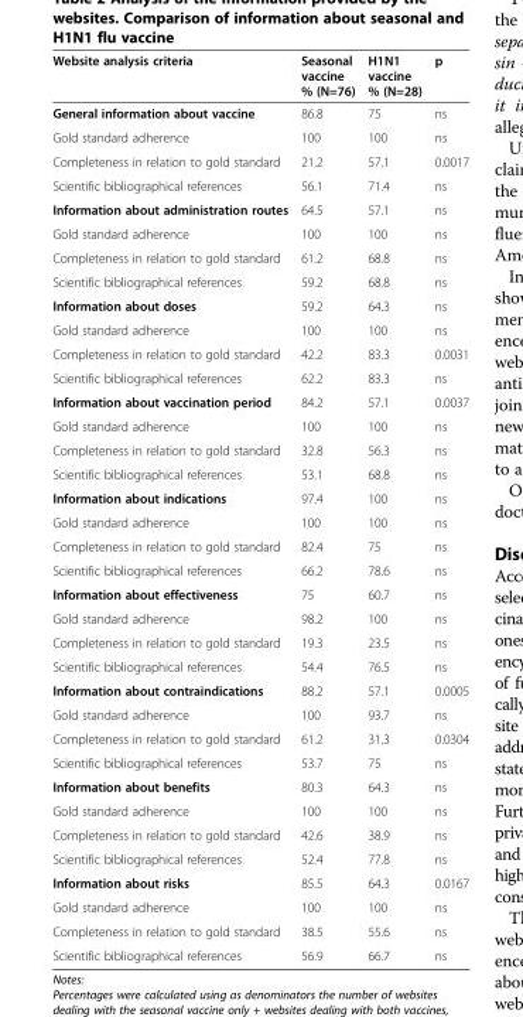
<table><thead><tr><td>Website analysis criteria</td><td>Seasonal vaccine % (N=76)</td><td>H1N1 vaccine % (N=28)</td><td>p</td></tr></thead><tbody><tr><td>General information about vaccine</td><td>86.8</td><td>75</td><td>ns</td></tr><tr><td>Gold standard adherence</td><td>100</td><td>100</td><td>ns</td></tr><tr><td>Completeness in relation to gold standard</td><td>21.2</td><td>57.1</td><td>0.0017</td></tr><tr><td>Scientific bibliographical references</td><td>56.1</td><td>71.4</td><td>ns</td></tr><tr><td>Information about administration routes</td><td>64.5</td><td>57.1</td><td>ns</td></tr><tr><td>Gold standard adherence</td><td>100</td><td>100</td><td>ns</td></tr><tr><td>Completeness in relation to gold standard</td><td>61.2</td><td>68.8</td><td>ns</td></tr><tr><td>Scientific bibliographical references</td><td>59.2</td><td>68.8</td><td>ns</td></tr><tr><td>Information about doses</td><td>59.2</td><td>64.3</td><td>ns</td></tr><tr><td>Gold standard adherence</td><td>100</td><td>100</td><td>ns</td></tr><tr><td>Completeness in relation to gold standard</td><td>42.2</td><td>83.3</td><td>0.0031</td></tr><tr><td>Scientific bibliographical references</td><td>62.2</td><td>83.3</td><td>ns</td></tr><tr><td>Information about vaccination period</td><td>84.2</td><td>57.1</td><td>0.0037</td></tr><tr><td>Gold standard adherence</td><td>100</td><td>100</td><td>ns</td></tr><tr><td>Completeness in relation to gold standard</td><td>32.8</td><td>56.3</td><td>ns</td></tr><tr><td>Scientific bibliographical references</td><td>53.1</td><td>68.8</td><td>ns</td></tr><tr><td>Information about indications</td><td>97.4</td><td>100</td><td>ns</td></tr><tr><td>Gold standard adherence</td><td>100</td><td>100</td><td>ns</td></tr><tr><td>Completeness in relation to gold standard</td><td>82.4</td><td>75</td><td>ns</td></tr><tr><td>Scientific bibliographical references</td><td>66.2</td><td>78.6</td><td>ns</td></tr><tr><td>Information about effectiveness</td><td>75</td><td>60.7</td><td>ns</td></tr><tr><td>Gold standard adherence</td><td>98.2</td><td>100</td><td>ns</td></tr><tr><td>Completeness in relation to gold standard</td><td>19.3</td><td>23.5</td><td>ns</td></tr><tr><td>Scientific bibliographical references</td><td>54.4</td><td>76.5</td><td>ns</td></tr><tr><td>Information about contraindications</td><td>88.2</td><td>57.1</td><td>0.0005</td></tr><tr><td>Gold standard adherence</td><td>100</td><td>93.7</td><td>ns</td></tr><tr><td>Completeness in relation to gold standard</td><td>61.2</td><td>31.3</td><td>0.0304</td></tr><tr><td>Scientific bibliographical references</td><td>53.7</td><td>75</td><td>ns</td></tr><tr><td>Information about benefits</td><td>80.3</td><td>64.3</td><td>ns</td></tr><tr><td>Gold standard adherence</td><td>100</td><td>100</td><td>ns</td></tr><tr><td>Completeness in relation to gold standard</td><td>42.6</td><td>38.9</td><td>ns</td></tr><tr><td>Scientific bibliographical references</td><td>52.4</td><td>77.8</td><td>ns</td></tr><tr><td>Information about risks</td><td>85.5</td><td>64.3</td><td>0.0167</td></tr><tr><td>Gold standard adherence</td><td>100</td><td>100</td><td>ns</td></tr><tr><td>Completeness in relation to gold standard</td><td>38.5</td><td>55.6</td><td>ns</td></tr><tr><td>Scientific bibliographical references</td><td>56.9</td><td>66.7</td><td>ns</td></tr></tbody></table>